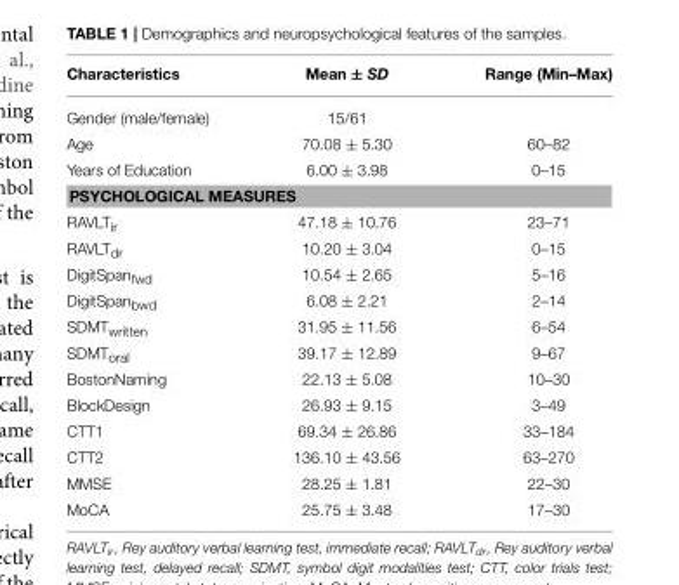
<table><thead><tr><td>Characteristics</td><td>Mean ± SD</td><td>Range (Min–Max)</td></tr></thead><tbody><tr><td>Gender (male/female)</td><td>15/61</td><td></td></tr><tr><td>Age</td><td>70.08 ± 5.30</td><td>60–82</td></tr><tr><td>Years of Education</td><td>6.00 ± 3.98</td><td>0–15</td></tr><tr><td colspan="3">PSYCHOLOGICAL MEASURES</td></tr><tr><td>RAVLT<sub>ir</sub></td><td>47.18 ± 10.76</td><td>23–71</td></tr><tr><td>RAVLT<sub>dr</sub></td><td>10.20 ± 3.04</td><td>0–15</td></tr><tr><td>DigitSpan<sub>fwd</sub></td><td>10.54 ± 2.65</td><td>5–16</td></tr><tr><td>DigitSpan<sub>bwd</sub></td><td>6.08 ± 2.21</td><td>2–14</td></tr><tr><td>SDMT<sub>written</sub></td><td>31.95 ± 11.56</td><td>6–54</td></tr><tr><td>SDMT<sub>oral</sub></td><td>39.17 ± 12.89</td><td>9–67</td></tr><tr><td>BostonNaming</td><td>22.13 ± 5.08</td><td>10–30</td></tr><tr><td>BlockDesign</td><td>26.93 ± 9.15</td><td>3–49</td></tr><tr><td>CTT1</td><td>69.34 ± 26.86</td><td>33–184</td></tr><tr><td>CTT2</td><td>136.10 ± 43.56</td><td>63–270</td></tr><tr><td>MMSE</td><td>28.25 ± 1.81</td><td>22–30</td></tr><tr><td>MoCA</td><td>25.75 ± 3.48</td><td>17–30</td></tr></tbody></table>